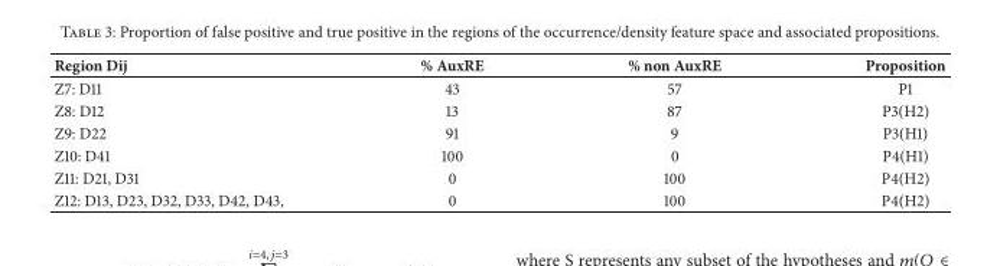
<table><thead><tr><td>Region Dij</td><td>% AuxRE</td><td>% non AuxRE</td><td>Proposition</td></tr></thead><tbody><tr><td>Z7: D11</td><td>43</td><td>57</td><td>P1</td></tr><tr><td>Z8: D12</td><td>13</td><td>87</td><td>P3(H2)</td></tr><tr><td>Z9: D22</td><td>91</td><td>9</td><td>P3(H1)</td></tr><tr><td>Z10: D41</td><td>100</td><td>0</td><td>P4(H1)</td></tr><tr><td>Z11: D21, D31</td><td>0</td><td>100</td><td>P4(H2)</td></tr><tr><td>Z12: D13, D23, D32, D33, D42, D43,</td><td>0</td><td>100</td><td>P4(H2)</td></tr></tbody></table>